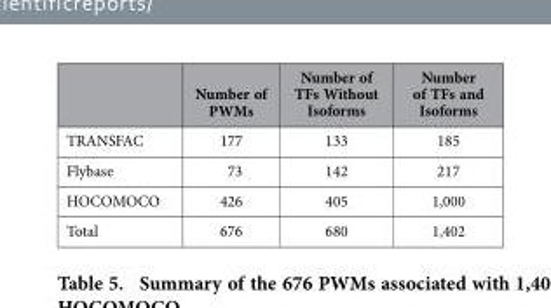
<table><thead><tr><td></td><td>Number of PWMs</td><td>Number of TFs Without Isoforms</td><td>Number of TFs and Isoforms</td></tr></thead><tbody><tr><td>TRANSFAC</td><td>177</td><td>133</td><td>185</td></tr><tr><td>Flybase</td><td>73</td><td>142</td><td>217</td></tr><tr><td>HOCOMOCO</td><td>426</td><td>405</td><td>1,000</td></tr><tr><td>Total</td><td>676</td><td>680</td><td>1,402</td></tr></tbody></table>